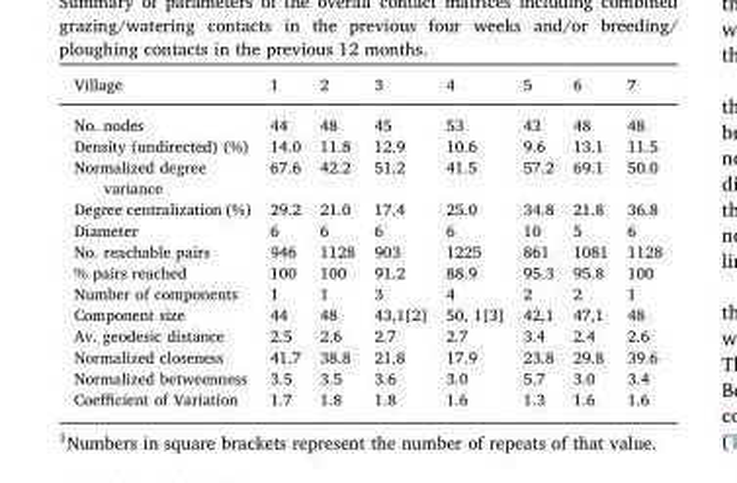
<table><thead><tr><td>Village</td><td>1</td><td>2</td><td>3</td><td>4</td><td>5</td><td>6</td><td>7</td></tr></thead><tbody><tr><td>No. nodes</td><td>44</td><td>48</td><td>45</td><td>53</td><td>43</td><td>48</td><td>48</td></tr><tr><td>Density (undirected) (%)</td><td>14.0</td><td>11.8</td><td>12.9</td><td>10.6</td><td>9.6</td><td>13.1</td><td>11.5</td></tr><tr><td>Normalized degree variance</td><td>67.6</td><td>42.2</td><td>51.2</td><td>41.5</td><td>57.2</td><td>69.1</td><td>50.0</td></tr><tr><td>Degree centralization (%)</td><td>29.2</td><td>21.0</td><td>17.4</td><td>25.0</td><td>34.8</td><td>21.8</td><td>36.8</td></tr><tr><td>Diameter</td><td>6</td><td>6</td><td>6</td><td>6</td><td>10</td><td>5</td><td>6</td></tr><tr><td>No. reachable pairs</td><td>946</td><td>1128</td><td>903</td><td>1225</td><td>861</td><td>1081</td><td>1128</td></tr><tr><td>% pairs reached</td><td>100</td><td>100</td><td>91.2</td><td>88.9</td><td>95.3</td><td>95.8</td><td>100</td></tr><tr><td>Number of components</td><td>1</td><td>1</td><td>3</td><td>4</td><td>2</td><td>2</td><td>1</td></tr><tr><td>Component size</td><td>44</td><td>48</td><td>43,1[2]</td><td>50, 1[3]</td><td>42,1</td><td>47,1</td><td>48</td></tr><tr><td>Av. geodesic distance</td><td>2.5</td><td>2.6</td><td>2.7</td><td>2.7</td><td>3.4</td><td>2.4</td><td>2.6</td></tr><tr><td>Normalized closeness</td><td>41.7</td><td>38.8</td><td>21.8</td><td>17.9</td><td>23.8</td><td>29.8</td><td>39.6</td></tr><tr><td>Normalized betweenness</td><td>3.5</td><td>3.5</td><td>3.6</td><td>3.0</td><td>5.7</td><td>3.0</td><td>3.4</td></tr><tr><td>Coefficient of Variation</td><td>1.7</td><td>1.8</td><td>1.8</td><td>1.6</td><td>1.3</td><td>1.6</td><td>1.6</td></tr></tbody></table>